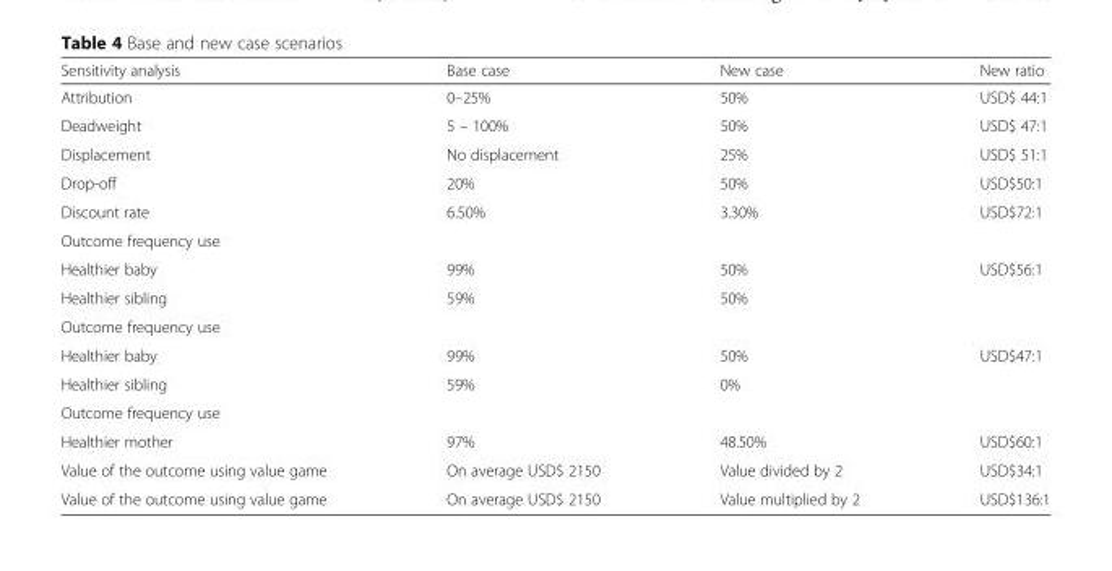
<table><thead><tr><td>Sensitivity analysis</td><td>Base case</td><td>New case</td><td>New ratio</td></tr></thead><tbody><tr><td>Attribution</td><td>0–25%</td><td>50%</td><td>USD$ 44:1</td></tr><tr><td>Deadweight</td><td>5 – 100%</td><td>50%</td><td>USD$ 47:1</td></tr><tr><td>Displacement</td><td>No displacement</td><td>25%</td><td>USD$ 51:1</td></tr><tr><td>Drop-off</td><td>20%</td><td>50%</td><td>USD$50:1</td></tr><tr><td>Discount rate</td><td>6.50%</td><td>3.30%</td><td>USD$72:1</td></tr><tr><td colspan="4">Outcome frequency use</td></tr><tr><td>Healthier baby</td><td>99%</td><td>50%</td><td rowspan="2">USD$56:1</td></tr><tr><td>Healthier sibling</td><td>59%</td><td>50%</td></tr><tr><td colspan="4">Outcome frequency use</td></tr><tr><td>Healthier baby</td><td>99%</td><td>50%</td><td rowspan="2">USD$47:1</td></tr><tr><td>Healthier sibling</td><td>59%</td><td>0%</td></tr><tr><td colspan="4">Outcome frequency use</td></tr><tr><td>Healthier mother</td><td>97%</td><td>48.50%</td><td>USD$60:1</td></tr><tr><td>Value of the outcome using value game</td><td>On average USD$ 2150</td><td>Value divided by 2</td><td>USD$34:1</td></tr><tr><td>Value of the outcome using value game</td><td>On average USD$ 2150</td><td>Value multiplied by 2</td><td>USD$136:1</td></tr></tbody></table>